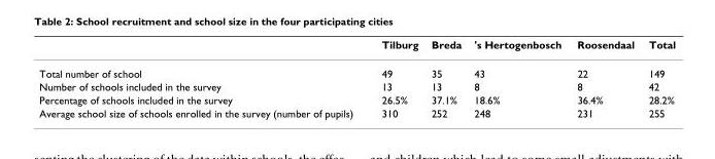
<table><thead><tr><td></td><td>Tilburg</td><td>Breda</td><td>&#x27;s Hertogenbosch</td><td>Roosendaal</td><td>Total</td></tr></thead><tbody><tr><td>Total number of school</td><td>49</td><td>35</td><td>43</td><td>22</td><td>149</td></tr><tr><td>Number of schools included in the survey</td><td>13</td><td>13</td><td>8</td><td>8</td><td>42</td></tr><tr><td>Percentage of schools included in the survey</td><td>26.5%</td><td>37.1%</td><td>18.6%</td><td>36.4%</td><td>28.2%</td></tr><tr><td>Average school size of schools enrolled in the survey (number of pupils)</td><td>310</td><td>252</td><td>248</td><td>231</td><td>255</td></tr></tbody></table>